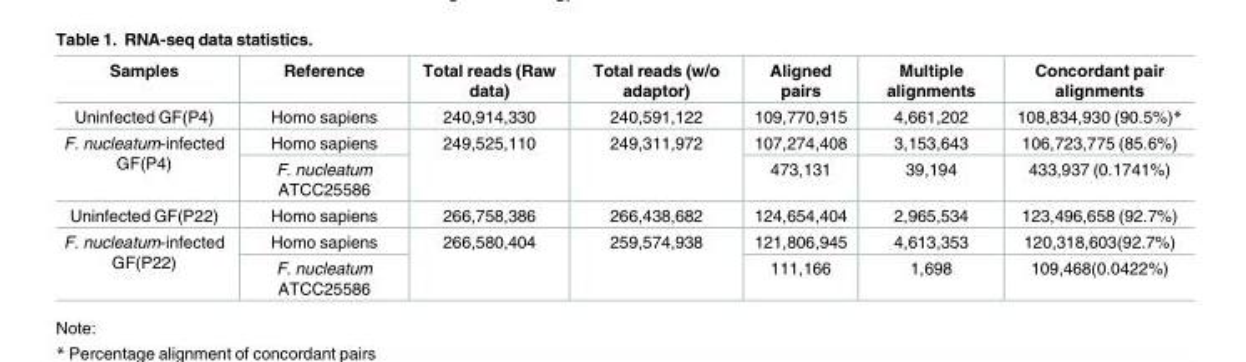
<table><thead><tr><td>Samples</td><td>Reference</td><td>Total reads (Raw data)</td><td>Total reads (w/o adaptor)</td><td>Aligned pairs</td><td>Multiple alignments</td><td>Concordant pair alignments</td></tr></thead><tbody><tr><td>Uninfected GF(P4)</td><td>Homo sapiens</td><td>240,914,330</td><td>240,591,122</td><td>109,770,915</td><td>4,661,202</td><td>108,834,930 (90.5%)*</td></tr><tr><td rowspan="2">F. nucleatum-infected GF(P4)</td><td>Homo sapiens</td><td rowspan="2">249,525,110</td><td rowspan="2">249,311,972</td><td>107,274,408</td><td>3,153,643</td><td>106,723,775 (85.6%)</td></tr><tr><td>F. nucleatum ATCC25586</td><td>473,131</td><td>39,194</td><td>433,937 (0.1741%)</td></tr><tr><td>Uninfected GF(P22)</td><td>Homo sapiens</td><td>266,758,386</td><td>266,438,682</td><td>124,654,404</td><td>2,965,534</td><td>123,496,658 (92.7%)</td></tr><tr><td rowspan="2">F. nucleatum-infected GF(P22)</td><td>Homo sapiens</td><td rowspan="2">266,580,404</td><td rowspan="2">259,574,938</td><td>121,806,945</td><td>4,613,353</td><td>120,318,603(92.7%)</td></tr><tr><td>F. nucleatum ATCC25586</td><td>111,166</td><td>1,698</td><td>109,468(0.0422%)</td></tr></tbody></table>